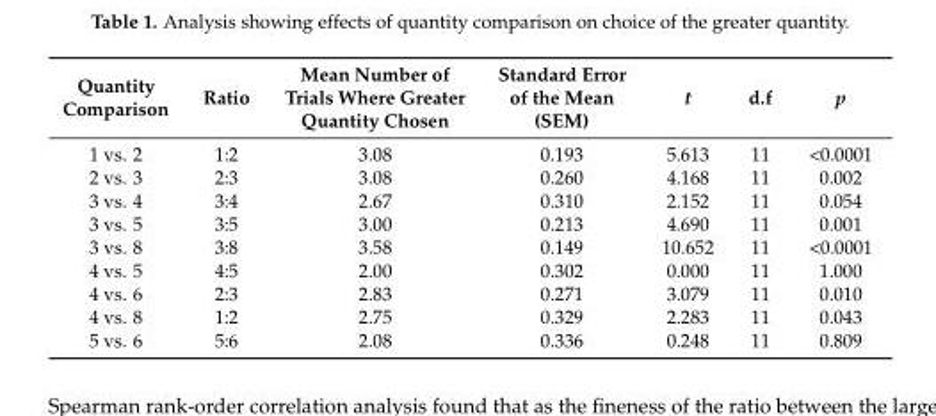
<table><thead><tr><td>Quantity Comparison</td><td>Ratio</td><td>Mean Number of Trials Where Greater Quantity Chosen</td><td>Standard Error of the Mean (SEM)</td><td>t</td><td>d.f</td><td>p</td></tr></thead><tbody><tr><td>1 vs. 2</td><td>1:2</td><td>3.08</td><td>0.193</td><td>5.613</td><td>11</td><td>&lt;0.0001</td></tr><tr><td>2 vs. 3</td><td>2:3</td><td>3.08</td><td>0.260</td><td>4.168</td><td>11</td><td>0.002</td></tr><tr><td>3 vs. 4</td><td>3:4</td><td>2.67</td><td>0.310</td><td>2.152</td><td>11</td><td>0.054</td></tr><tr><td>3 vs. 5</td><td>3:5</td><td>3.00</td><td>0.213</td><td>4.690</td><td>11</td><td>0.001</td></tr><tr><td>3 vs. 8</td><td>3:8</td><td>3.58</td><td>0.149</td><td>10.652</td><td>11</td><td>&lt;0.0001</td></tr><tr><td>4 vs. 5</td><td>4:5</td><td>2.00</td><td>0.302</td><td>0.000</td><td>11</td><td>1.000</td></tr><tr><td>4 vs. 6</td><td>2:3</td><td>2.83</td><td>0.271</td><td>3.079</td><td>11</td><td>0.010</td></tr><tr><td>4 vs. 8</td><td>1:2</td><td>2.75</td><td>0.329</td><td>2.283</td><td>11</td><td>0.043</td></tr><tr><td>5 vs. 6</td><td>5:6</td><td>2.08</td><td>0.336</td><td>0.248</td><td>11</td><td>0.809</td></tr></tbody></table>